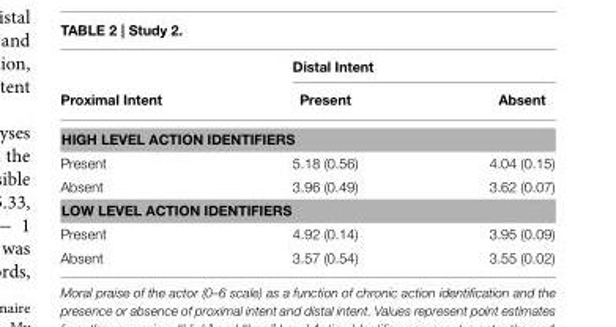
<table><thead><tr><td rowspan="2">Proximal Intent</td><td colspan="2">Distal Intent</td></tr><tr><td>Present</td><td>Absent</td></tr></thead><tbody><tr><td colspan="3">HIGH LEVEL ACTION IDENTIFIERS</td></tr><tr><td>Present</td><td>5.18 (0.56)</td><td>4.04 (0.15)</td></tr><tr><td>Absent</td><td>3.96 (0.49)</td><td>3.62 (0.07)</td></tr><tr><td colspan="3">LOW LEVEL ACTION IDENTIFIERS</td></tr><tr><td>Present</td><td>4.92 (0.14)</td><td>3.95 (0.09)</td></tr><tr><td>Absent</td><td>3.57 (0.54)</td><td>3.55 (0.02)</td></tr></tbody></table>